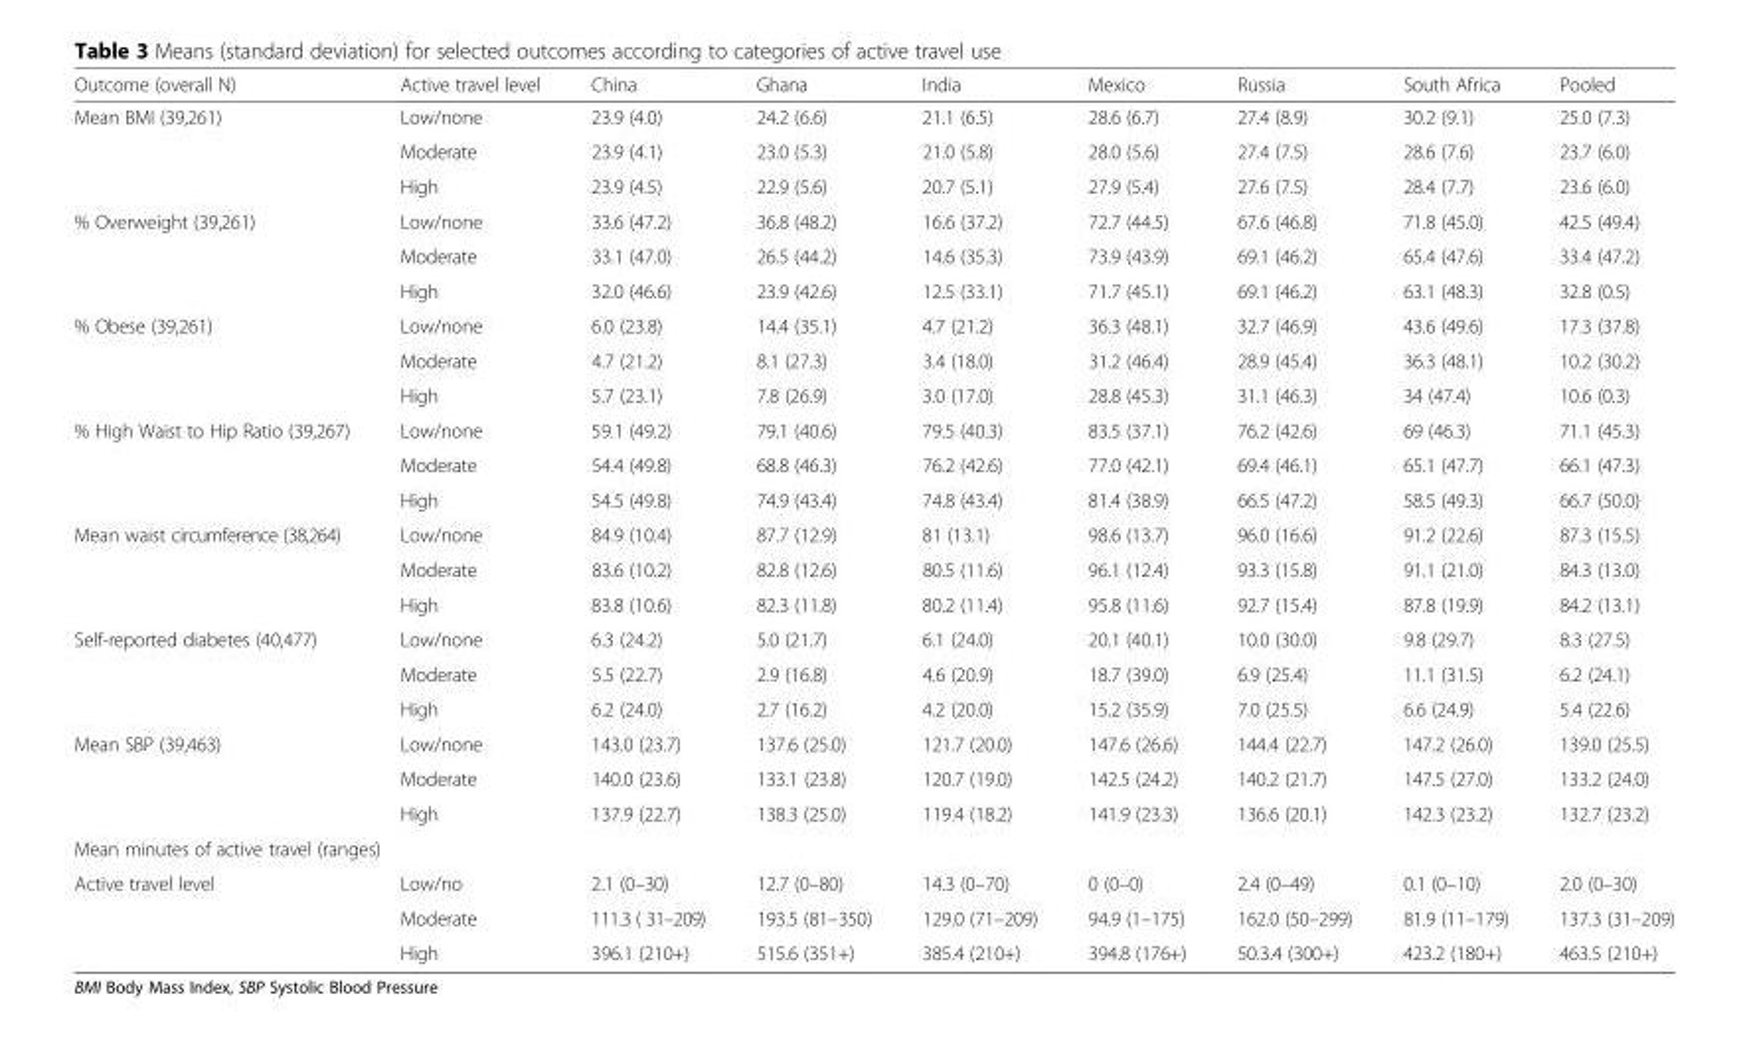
<table><thead><tr><td>Outcome (overall N)</td><td>Active travel level</td><td>China</td><td>Ghana</td><td>India</td><td>Mexico</td><td>Russia</td><td>South Africa</td><td>Pooled</td></tr></thead><tbody><tr><td rowspan="3">Mean BMI (39,261)</td><td>Low/none</td><td>23.9 (4.0)</td><td>24.2 (6.6)</td><td>21.1 (6.5)</td><td>28.6 (6.7)</td><td>27.4 (8.9)</td><td>30.2 (9.1)</td><td>25.0 (7.3)</td></tr><tr><td>Moderate</td><td>23.9 (4.1)</td><td>23.0 (5.3)</td><td>21.0 (5.8)</td><td>28.0 (5.6)</td><td>27.4 (7.5)</td><td>28.6 (7.6)</td><td>23.7 (6.0)</td></tr><tr><td>High</td><td>23.9 (4.5)</td><td>22.9 (5.6)</td><td>20.7 (5.1)</td><td>27.9 (5.4)</td><td>27.6 (7.5)</td><td>28.4 (7.7)</td><td>23.6 (6.0)</td></tr><tr><td rowspan="3">% Overweight (39,261)</td><td>Low/none</td><td>33.6 (47.2)</td><td>36.8 (48.2)</td><td>16.6 (37.2)</td><td>72.7 (44.5)</td><td>67.6 (46.8)</td><td>71.8 (45.0)</td><td>42.5 (49.4)</td></tr><tr><td>Moderate</td><td>33.1 (47.0)</td><td>26.5 (44.2)</td><td>14.6 (35.3)</td><td>73.9 (43.9)</td><td>69.1 (46.2)</td><td>65.4 (47.6)</td><td>33.4 (47.2)</td></tr><tr><td>High</td><td>32.0 (46.6)</td><td>23.9 (42.6)</td><td>12.5 (33.1)</td><td>71.7 (45.1)</td><td>69.1 (46.2)</td><td>63.1 (48.3)</td><td>32.8 (0.5)</td></tr><tr><td rowspan="3">% Obese (39,261)</td><td>Low/none</td><td>6.0 (23.8)</td><td>14.4 (35.1)</td><td>4.7 (21.2)</td><td>36.3 (48.1)</td><td>32.7 (46.9)</td><td>43.6 (49.6)</td><td>17.3 (37.8)</td></tr><tr><td>Moderate</td><td>4.7 (21.2)</td><td>8.1 (27.3)</td><td>3.4 (18.0)</td><td>31.2 (46.4)</td><td>28.9 (45.4)</td><td>36.3 (48.1)</td><td>10.2 (30.2)</td></tr><tr><td>High</td><td>5.7 (23.1)</td><td>7.8 (26.9)</td><td>3.0 (17.0)</td><td>28.8 (45.3)</td><td>31.1 (46.3)</td><td>34 (47.4)</td><td>10.6 (0.3)</td></tr><tr><td rowspan="3">% High Waist to Hip Ratio (39,267)</td><td>Low/none</td><td>59.1 (49.2)</td><td>79.1 (40.6)</td><td>79.5 (40.3)</td><td>83.5 (37.1)</td><td>76.2 (42.6)</td><td>69 (46.3)</td><td>71.1 (45.3)</td></tr><tr><td>Moderate</td><td>54.4 (49.8)</td><td>68.8 (46.3)</td><td>76.2 (42.6)</td><td>77.0 (42.1)</td><td>69.4 (46.1)</td><td>65.1 (47.7)</td><td>66.1 (47.3)</td></tr><tr><td>High</td><td>54.5 (49.8)</td><td>74.9 (43.4)</td><td>74.8 (43.4)</td><td>81.4 (38.9)</td><td>66.5 (47.2)</td><td>58.5 (49.3)</td><td>66.7 (50.0)</td></tr><tr><td rowspan="3">Mean waist circumference (38,264)</td><td>Low/none</td><td>84.9 (10.4)</td><td>87.7 (12.9)</td><td>81 (13.1)</td><td>98.6 (13.7)</td><td>96.0 (16.6)</td><td>91.2 (22.6)</td><td>87.3 (15.5)</td></tr><tr><td>Moderate</td><td>83.6 (10.2)</td><td>82.8 (12.6)</td><td>80.5 (11.6)</td><td>96.1 (12.4)</td><td>93.3 (15.8)</td><td>91.1 (21.0)</td><td>84.3 (13.0)</td></tr><tr><td>High</td><td>83.8 (10.6)</td><td>82.3 (11.8)</td><td>80.2 (11.4)</td><td>95.8 (11.6)</td><td>92.7 (15.4)</td><td>87.8 (19.9)</td><td>84.2 (13.1)</td></tr><tr><td rowspan="3">Self-reported diabetes (40,477)</td><td>Low/none</td><td>6.3 (24.2)</td><td>5.0 (21.7)</td><td>6.1 (24.0)</td><td>20.1 (40.1)</td><td>10.0 (30.0)</td><td>9.8 (29.7)</td><td>8.3 (27.5)</td></tr><tr><td>Moderate</td><td>5.5 (22.7)</td><td>2.9 (16.8)</td><td>4.6 (20.9)</td><td>18.7 (39.0)</td><td>6.9 (25.4)</td><td>11.1 (31.5)</td><td>6.2 (24.1)</td></tr><tr><td>High</td><td>6.2 (24.0)</td><td>2.7 (16.2)</td><td>4.2 (20.0)</td><td>15.2 (35.9)</td><td>7.0 (25.5)</td><td>6.6 (24.9)</td><td>5.4 (22.6)</td></tr><tr><td rowspan="3">Mean SBP (39,463)</td><td>Low/none</td><td>143.0 (23.7)</td><td>137.6 (25.0)</td><td>121.7 (20.0)</td><td>147.6 (26.6)</td><td>144.4 (22.7)</td><td>147.2 (26.0)</td><td>139.0 (25.5)</td></tr><tr><td>Moderate</td><td>140.0 (23.6)</td><td>133.1 (23.8)</td><td>120.7 (19.0)</td><td>142.5 (24.2)</td><td>140.2 (21.7)</td><td>147.5 (27.0)</td><td>133.2 (24.0)</td></tr><tr><td>High</td><td>137.9 (22.7)</td><td>138.3 (25.0)</td><td>119.4 (18.2)</td><td>141.9 (23.3)</td><td>136.6 (20.1)</td><td>142.3 (23.2)</td><td>132.7 (23.2)</td></tr><tr><td colspan="9">Mean minutes of active travel (ranges)</td></tr><tr><td rowspan="3">Active travel level</td><td>Low/no</td><td>2.1 (0–30)</td><td>12.7 (0–80)</td><td>14.3 (0–70)</td><td>0 (0–0)</td><td>2.4 (0–49)</td><td>0.1 (0–10)</td><td>2.0 (0–30)</td></tr><tr><td>Moderate</td><td>111.3 ( 31–209)</td><td>193.5 (81–350)</td><td>129.0 (71–209)</td><td>94.9 (1–175)</td><td>162.0 (50–299)</td><td>81.9 (11–179)</td><td>137.3 (31–209)</td></tr><tr><td>High</td><td>396.1 (210+)</td><td>515.6 (351+)</td><td>385.4 (210+)</td><td>394.8 (176+)</td><td>50.3.4 (300+)</td><td>423.2 (180+)</td><td>463.5 (210+)</td></tr></tbody></table>